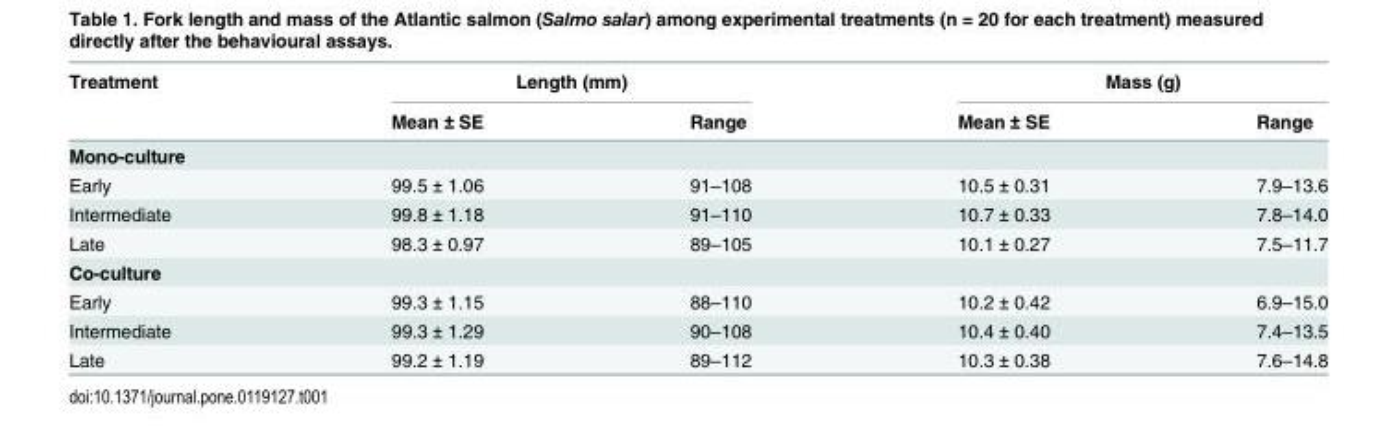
<table><thead><tr><td rowspan="2">Treatment</td><td colspan="2">Length (mm)</td><td colspan="2">Mass (g)</td></tr><tr><td>Mean ± SE</td><td>Range</td><td>Mean ± SE</td><td>Range</td></tr></thead><tbody><tr><td colspan="5">Mono-culture</td></tr><tr><td>Early</td><td>99.5 ± 1.06</td><td>91–108</td><td>10.5 ± 0.31</td><td>7.9–13.6</td></tr><tr><td>Intermediate</td><td>99.8 ± 1.18</td><td>91–110</td><td>10.7 ± 0.33</td><td>7.8–14.0</td></tr><tr><td>Late</td><td>98.3 ± 0.97</td><td>89–105</td><td>10.1 ± 0.27</td><td>7.5–11.7</td></tr><tr><td colspan="5">Co-culture</td></tr><tr><td>Early</td><td>99.3 ± 1.15</td><td>88–110</td><td>10.2 ± 0.42</td><td>6.9–15.0</td></tr><tr><td>Intermediate</td><td>99.3 ± 1.29</td><td>90–108</td><td>10.4 ± 0.40</td><td>7.4–13.5</td></tr><tr><td>Late</td><td>99.2 ± 1.19</td><td>89–112</td><td>10.3 ± 0.38</td><td>7.6–14.8</td></tr></tbody></table>